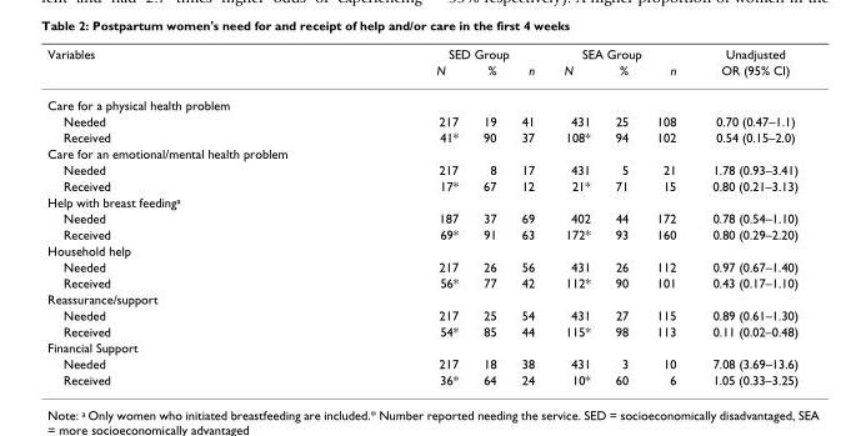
<table><thead><tr><td rowspan="2">Variables</td><td colspan="3">SED Group</td><td colspan="3">SEA Group</td><td rowspan="2">Unadjusted OR (95% CI)</td></tr><tr><td>N</td><td>%</td><td>n</td><td>N</td><td>%</td><td>n</td></tr></thead><tbody><tr><td colspan="8">Care for a physical health problem</td></tr><tr><td>Needed</td><td>217</td><td>19</td><td>41</td><td>431</td><td>25</td><td>108</td><td>0.70 (0.47–1.1)</td></tr><tr><td>Received</td><td>41*</td><td>90</td><td>37</td><td>108*</td><td>94</td><td>102</td><td>0.54 (0.15–2.0)</td></tr><tr><td colspan="8">Care for an emotional/mental health problem</td></tr><tr><td>Needed</td><td>217</td><td>8</td><td>17</td><td>431</td><td>5</td><td>21</td><td>1.78 (0.93–3.41)</td></tr><tr><td>Received</td><td>17*</td><td>67</td><td>12</td><td>21*</td><td>71</td><td>15</td><td>0.80 (0.21–3.13)</td></tr><tr><td colspan="8">Help with breast feeding<sup>a</sup></td></tr><tr><td>Needed</td><td>187</td><td>37</td><td>69</td><td>402</td><td>44</td><td>172</td><td>0.78 (0.54–1.10)</td></tr><tr><td>Received</td><td>69*</td><td>91</td><td>63</td><td>172*</td><td>93</td><td>160</td><td>0.80 (0.29–2.20)</td></tr><tr><td colspan="8">Household help</td></tr><tr><td>Needed</td><td>217</td><td>26</td><td>56</td><td>431</td><td>26</td><td>112</td><td>0.97 (0.67–1.40)</td></tr><tr><td>Received</td><td>56*</td><td>77</td><td>42</td><td>112*</td><td>90</td><td>101</td><td>0.43 (0.17–1.10)</td></tr><tr><td colspan="8">Reassurance/support</td></tr><tr><td>Needed</td><td>217</td><td>25</td><td>54</td><td>431</td><td>27</td><td>115</td><td>0.89 (0.61–1.30)</td></tr><tr><td>Received</td><td>54*</td><td>85</td><td>44</td><td>115*</td><td>98</td><td>113</td><td>0.11 (0.02–0.48)</td></tr><tr><td colspan="8">Financial Support</td></tr><tr><td>Needed</td><td>217</td><td>18</td><td>38</td><td>431</td><td>3</td><td>10</td><td>7.08 (3.69–13.6)</td></tr><tr><td>Received</td><td>36*</td><td>64</td><td>24</td><td>10*</td><td>60</td><td>6</td><td>1.05 (0.33–3.25)</td></tr></tbody></table>